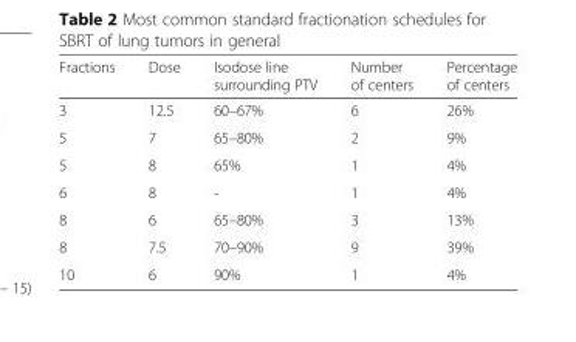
<table><thead><tr><td>Fractions</td><td>Dose</td><td>Isodose line surrounding PTV</td><td>Number of centers</td><td>Percentage of centers</td></tr></thead><tbody><tr><td>3</td><td>12.5</td><td>60–67%</td><td>6</td><td>26%</td></tr><tr><td>5</td><td>7</td><td>65–80%</td><td>2</td><td>9%</td></tr><tr><td>5</td><td>8</td><td>65%</td><td>1</td><td>4%</td></tr><tr><td>6</td><td>8</td><td>-</td><td>1</td><td>4%</td></tr><tr><td>8</td><td>6</td><td>65–80%</td><td>3</td><td>13%</td></tr><tr><td>8</td><td>7.5</td><td>70–90%</td><td>9</td><td>39%</td></tr><tr><td>10</td><td>6</td><td>90%</td><td>1</td><td>4%</td></tr></tbody></table>